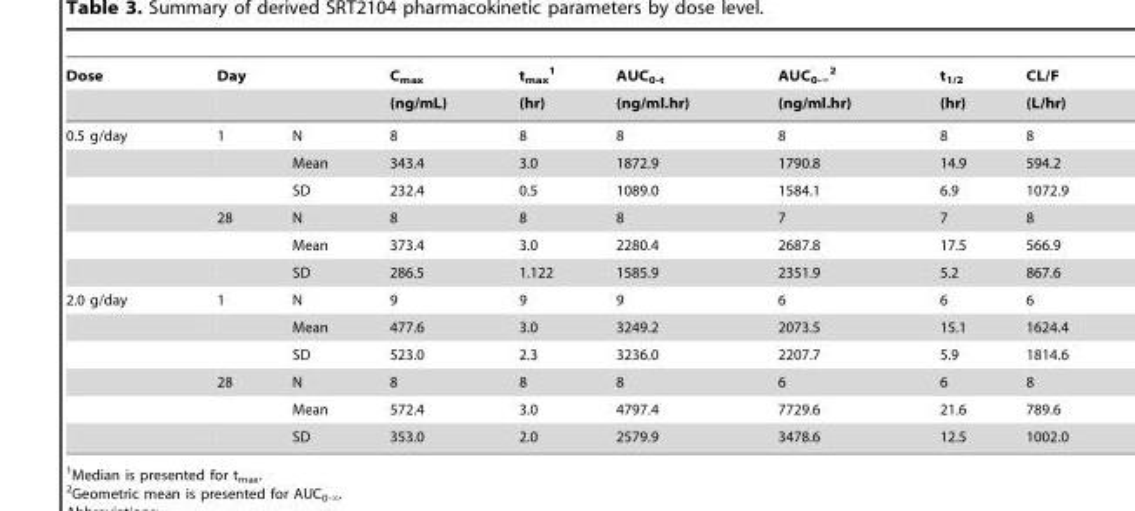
<table><thead><tr><td rowspan="2">Dose</td><td rowspan="2">Day</td><td rowspan="2"></td><td rowspan="2">C<sub>max</sub> (ng/mL)</td><td rowspan="2">t<sub>max</sub> 1 (hr)</td><td rowspan="2">AUC<sub>0-t</sub> (ng/ml.hr)</td><td rowspan="2">AUC0-‘ 2 (ng/ml.hr)</td><td rowspan="2">t<sub>1/2</sub> (hr)</td><td rowspan="2">CL/F (L/hr)</td></tr><tr></tr></thead><tbody><tr><td rowspan="6">0.5 g/day</td><td>1</td><td>N</td><td>8</td><td>8</td><td>8</td><td>8</td><td>8</td><td>8</td></tr><tr><td></td><td>Mean</td><td>343.4</td><td>3.0</td><td>1872.9</td><td>1790.8</td><td>14.9</td><td>594.2</td></tr><tr><td></td><td>SD</td><td>232.4</td><td>0.5</td><td>1089.0</td><td>1584.1</td><td>6.9</td><td>1072.9</td></tr><tr><td>28</td><td>N</td><td>8</td><td>8</td><td>8</td><td>7</td><td>7</td><td>8</td></tr><tr><td></td><td>Mean</td><td>373.4</td><td>3.0</td><td>2280.4</td><td>2687.8</td><td>17.5</td><td>566.9</td></tr><tr><td></td><td>SD</td><td>286.5</td><td>1.122</td><td>1585.9</td><td>2351.9</td><td>5.2</td><td>867.6</td></tr><tr><td rowspan="6">2.0 g/day</td><td>1</td><td>N</td><td>9</td><td>9</td><td>9</td><td>6</td><td>6</td><td>6</td></tr><tr><td></td><td>Mean</td><td>477.6</td><td>3.0</td><td>3249.2</td><td>2073.5</td><td>15.1</td><td>1624.4</td></tr><tr><td></td><td>SD</td><td>523.0</td><td>2.3</td><td>3236.0</td><td>2207.7</td><td>5.9</td><td>1814.6</td></tr><tr><td>28</td><td>N</td><td>8</td><td>8</td><td>8</td><td>6</td><td>6</td><td>8</td></tr><tr><td></td><td>Mean</td><td>572.4</td><td>3.0</td><td>4797.4</td><td>7729.6</td><td>21.6</td><td>789.6</td></tr><tr><td></td><td>SD</td><td>353.0</td><td>2.0</td><td>2579.9</td><td>3478.6</td><td>12.5</td><td>1002.0</td></tr></tbody></table>